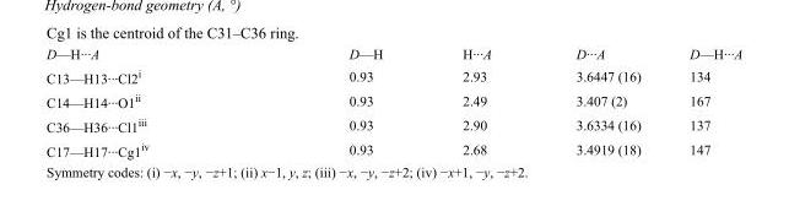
<table><tbody><tr><td>D—H···A</td><td>D—H</td><td>H···A</td><td>D···A</td><td>D—H···A</td></tr><tr><td>C13—H13···Cl2<sup>i</sup></td><td>0.93</td><td>2.93</td><td>3.6447 (16)</td><td>134</td></tr><tr><td>C14—H14···O1<sup>ii</sup></td><td>0.93</td><td>2.49</td><td>3.407 (2)</td><td>167</td></tr><tr><td>C36—H36···Cl1<sup>iii</sup></td><td>0.93</td><td>2.90</td><td>3.6334 (16)</td><td>137</td></tr><tr><td>C17—H17···Cg1<sup>iv</sup></td><td>0.93</td><td>2.68</td><td>3.4919 (18)</td><td>147</td></tr></tbody></table>